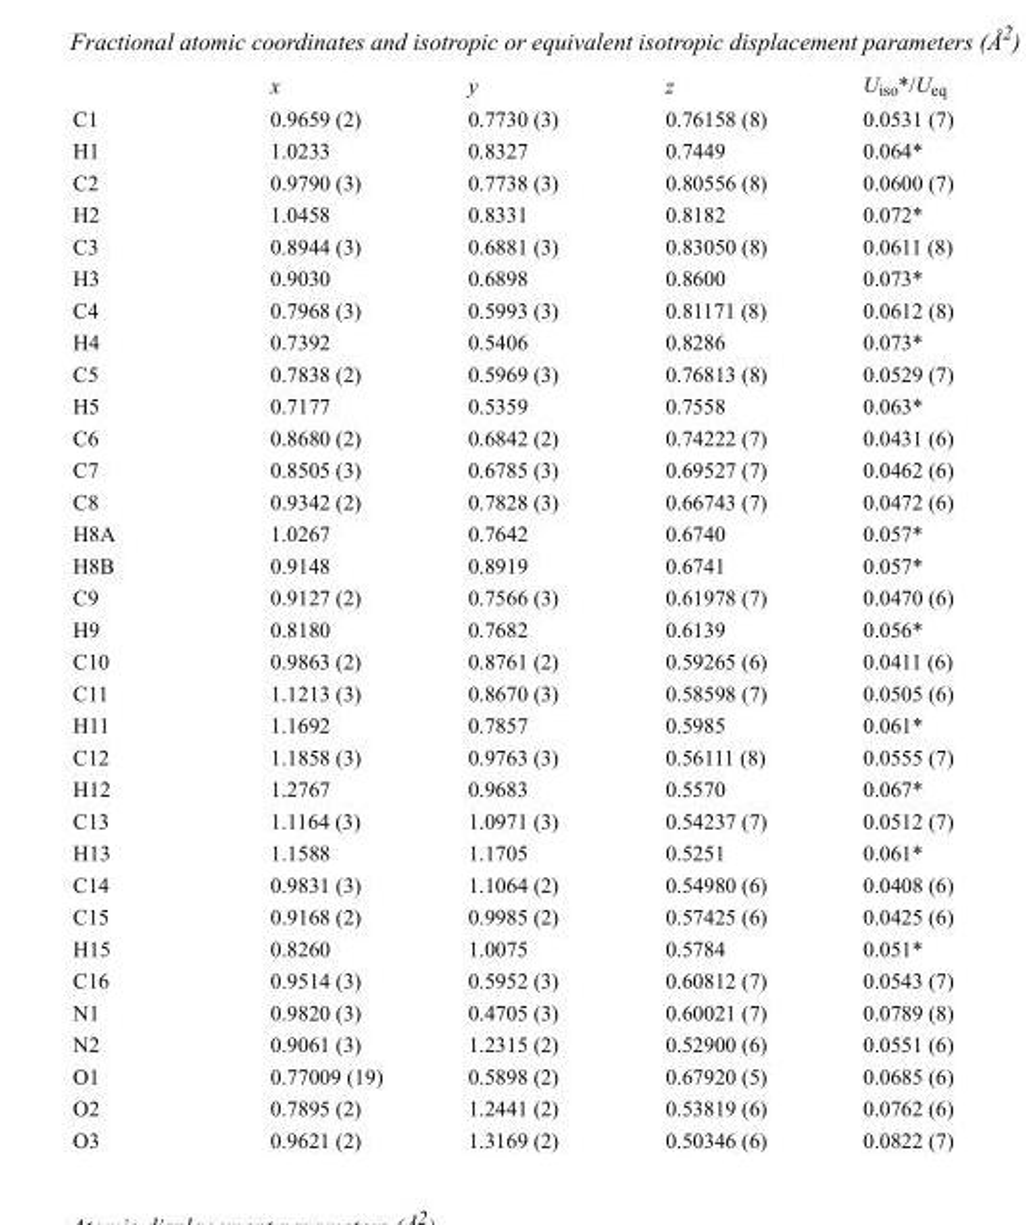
<table><thead><tr><td></td><td>x</td><td>y</td><td>z</td><td>U<sub>iso</sub>*/U<sub>eq</sub></td></tr></thead><tbody><tr><td>C1</td><td>0.9659 (2)</td><td>0.7730 (3)</td><td>0.76158 (8)</td><td>0.0531 (7)</td></tr><tr><td>H1</td><td>1.0233</td><td>0.8327</td><td>0.7449</td><td>0.064*</td></tr><tr><td>C2</td><td>0.9790 (3)</td><td>0.7738 (3)</td><td>0.80556 (8)</td><td>0.0600 (7)</td></tr><tr><td>H2</td><td>1.0458</td><td>0.8331</td><td>0.8182</td><td>0.072*</td></tr><tr><td>C3</td><td>0.8944 (3)</td><td>0.6881 (3)</td><td>0.83050 (8)</td><td>0.0611 (8)</td></tr><tr><td>H3</td><td>0.9030</td><td>0.6898</td><td>0.8600</td><td>0.073*</td></tr><tr><td>C4</td><td>0.7968 (3)</td><td>0.5993 (3)</td><td>0.81171 (8)</td><td>0.0612 (8)</td></tr><tr><td>H4</td><td>0.7392</td><td>0.5406</td><td>0.8286</td><td>0.073*</td></tr><tr><td>C5</td><td>0.7838 (2)</td><td>0.5969 (3)</td><td>0.76813 (8)</td><td>0.0529 (7)</td></tr><tr><td>H5</td><td>0.7177</td><td>0.5359</td><td>0.7558</td><td>0.063*</td></tr><tr><td>C6</td><td>0.8680 (2)</td><td>0.6842 (2)</td><td>0.74222 (7)</td><td>0.0431 (6)</td></tr><tr><td>C7</td><td>0.8505 (3)</td><td>0.6785 (3)</td><td>0.69527 (7)</td><td>0.0462 (6)</td></tr><tr><td>C8</td><td>0.9342 (2)</td><td>0.7828 (3)</td><td>0.66743 (7)</td><td>0.0472 (6)</td></tr><tr><td>H8A</td><td>1.0267</td><td>0.7642</td><td>0.6740</td><td>0.057*</td></tr><tr><td>H8B</td><td>0.9148</td><td>0.8919</td><td>0.6741</td><td>0.057*</td></tr><tr><td>C9</td><td>0.9127 (2)</td><td>0.7566 (3)</td><td>0.61978 (7)</td><td>0.0470 (6)</td></tr><tr><td>H9</td><td>0.8180</td><td>0.7682</td><td>0.6139</td><td>0.056*</td></tr><tr><td>C10</td><td>0.9863 (2)</td><td>0.8761 (2)</td><td>0.59265 (6)</td><td>0.0411 (6)</td></tr><tr><td>C11</td><td>1.1213 (3)</td><td>0.8670 (3)</td><td>0.58598 (7)</td><td>0.0505 (6)</td></tr><tr><td>H11</td><td>1.1692</td><td>0.7857</td><td>0.5985</td><td>0.061*</td></tr><tr><td>C12</td><td>1.1858 (3)</td><td>0.9763 (3)</td><td>0.56111 (8)</td><td>0.0555 (7)</td></tr><tr><td>H12</td><td>1.2767</td><td>0.9683</td><td>0.5570</td><td>0.067*</td></tr><tr><td>C13</td><td>1.1164 (3)</td><td>1.0971 (3)</td><td>0.54237 (7)</td><td>0.0512 (7)</td></tr><tr><td>H13</td><td>1.1588</td><td>1.1705</td><td>0.5251</td><td>0.061*</td></tr><tr><td>C14</td><td>0.9831 (3)</td><td>1.1064 (2)</td><td>0.54980 (6)</td><td>0.0408 (6)</td></tr><tr><td>C15</td><td>0.9168 (2)</td><td>0.9985 (2)</td><td>0.57425 (6)</td><td>0.0425 (6)</td></tr><tr><td>H15</td><td>0.8260</td><td>1.0075</td><td>0.5784</td><td>0.051*</td></tr><tr><td>C16</td><td>0.9514 (3)</td><td>0.5952 (3)</td><td>0.60812 (7)</td><td>0.0543 (7)</td></tr><tr><td>N1</td><td>0.9820 (3)</td><td>0.4705 (3)</td><td>0.60021 (7)</td><td>0.0789 (8)</td></tr><tr><td>N2</td><td>0.9061 (3)</td><td>1.2315 (2)</td><td>0.52900 (6)</td><td>0.0551 (6)</td></tr><tr><td>O1</td><td>0.77009 (19)</td><td>0.5898 (2)</td><td>0.67920 (5)</td><td>0.0685 (6)</td></tr><tr><td>O2</td><td>0.7895 (2)</td><td>1.2441 (2)</td><td>0.53819 (6)</td><td>0.0762 (6)</td></tr><tr><td>O3</td><td>0.9621 (2)</td><td>1.3169 (2)</td><td>0.50346 (6)</td><td>0.0822 (7)</td></tr></tbody></table>